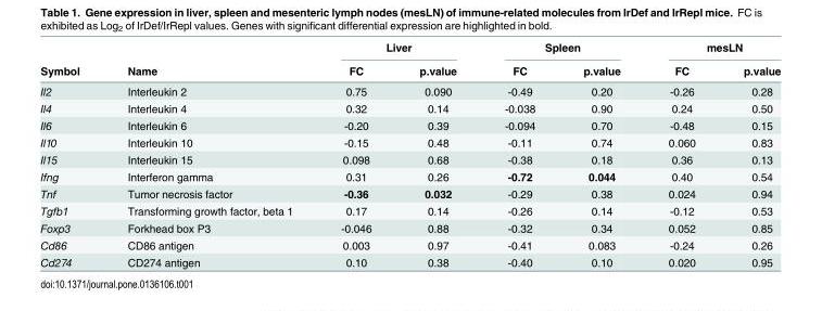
<table><thead><tr><td rowspan="2">Symbol</td><td rowspan="2">Name</td><td colspan="2">Liver</td><td colspan="2">Spleen</td><td colspan="2">mesLN</td></tr><tr><td>FC</td><td>p.value</td><td>FC</td><td>p.value</td><td>FC</td><td>p.value</td></tr></thead><tbody><tr><td>Il2</td><td>Interleukin 2</td><td>0.75</td><td>0.090</td><td>-0.49</td><td>0.20</td><td>-0.26</td><td>0.28</td></tr><tr><td>Il4</td><td>Interleukin 4</td><td>0.32</td><td>0.14</td><td>-0.038</td><td>0.90</td><td>0.24</td><td>0.50</td></tr><tr><td>Il6</td><td>Interleukin 6</td><td>-0.20</td><td>0.39</td><td>-0.094</td><td>0.70</td><td>-0.48</td><td>0.15</td></tr><tr><td>Il10</td><td>Interleukin 10</td><td>-0.15</td><td>0.48</td><td>-0.11</td><td>0.74</td><td>0.060</td><td>0.83</td></tr><tr><td>Il15</td><td>Interleukin 15</td><td>0.098</td><td>0.68</td><td>-0.38</td><td>0.18</td><td>0.36</td><td>0.13</td></tr><tr><td>Ifng</td><td>Interferon gamma</td><td>0.31</td><td>0.26</td><td>-0.72</td><td>0.044</td><td>0.40</td><td>0.54</td></tr><tr><td>Tnf</td><td>Tumor necrosis factor</td><td>-0.36</td><td>0.032</td><td>-0.29</td><td>0.38</td><td>0.024</td><td>0.94</td></tr><tr><td>Tgfb1</td><td>Transforming growth factor, beta 1</td><td>0.17</td><td>0.14</td><td>-0.26</td><td>0.14</td><td>-0.12</td><td>0.53</td></tr><tr><td>Foxp3</td><td>Forkhead box P3</td><td>-0.046</td><td>0.88</td><td>-0.32</td><td>0.34</td><td>0.052</td><td>0.85</td></tr><tr><td>Cd86</td><td>CD86 antigen</td><td>0.003</td><td>0.97</td><td>-0.41</td><td>0.083</td><td>-0.24</td><td>0.26</td></tr><tr><td>Cd274</td><td>CD274 antigen</td><td>0.10</td><td>0.38</td><td>-0.40</td><td>0.10</td><td>0.020</td><td>0.95</td></tr></tbody></table>